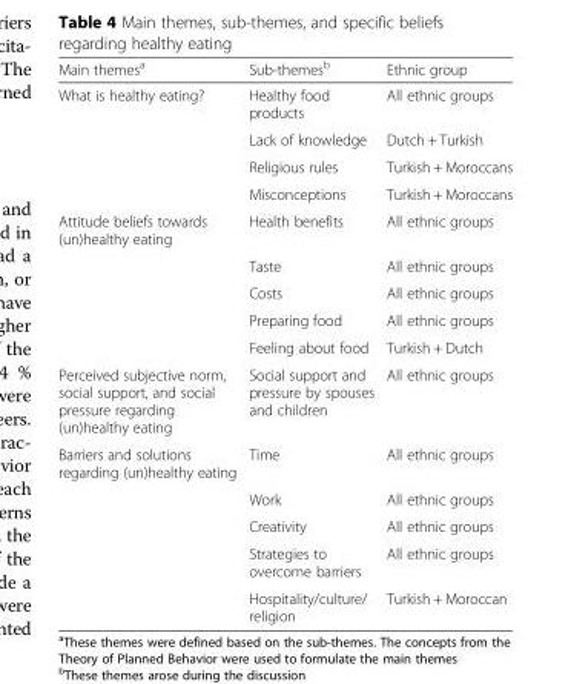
<table><thead><tr><td>Main themes<sup>a</sup></td><td>Sub-themes<sup>b</sup></td><td>Ethnic group</td></tr></thead><tbody><tr><td rowspan="4">What is healthy eating?</td><td>Healthy food products</td><td>All ethnic groups</td></tr><tr><td>Lack of knowledge</td><td>Dutch + Turkish</td></tr><tr><td>Religious rules</td><td>Turkish + Moroccans</td></tr><tr><td>Misconceptions</td><td>Turkish + Moroccans</td></tr><tr><td rowspan="5">Attitude beliefs towards (un)healthy eating</td><td>Health benefits</td><td>All ethnic groups</td></tr><tr><td>Taste</td><td>All ethnic groups</td></tr><tr><td>Costs</td><td>All ethnic groups</td></tr><tr><td>Preparing food</td><td>All ethnic groups</td></tr><tr><td>Feeling about food</td><td>Turkish + Dutch</td></tr><tr><td>Perceived subjective norm, social support, and social pressure regarding (un)healthy eating</td><td>Social support and pressure by spouses and children</td><td>All ethnic groups</td></tr><tr><td rowspan="5">Barriers and solutions regarding (un)healthy eating</td><td>Time</td><td>All ethnic groups</td></tr><tr><td>Work</td><td>All ethnic groups</td></tr><tr><td>Creativity</td><td>All ethnic groups</td></tr><tr><td>Strategies to overcome barriers</td><td>All ethnic groups</td></tr><tr><td>Hospitality/culture/ religion</td><td>Turkish + Moroccan</td></tr></tbody></table>